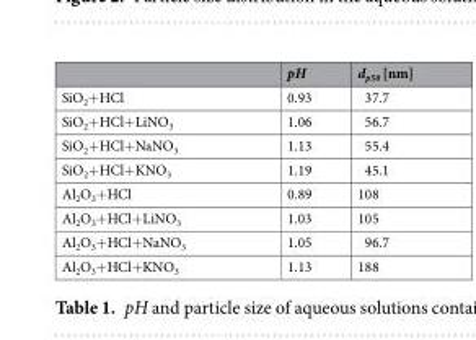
<table><thead><tr><td></td><td>pH</td><td>d<sub>p50</sub> [nm]</td></tr></thead><tbody><tr><td>SiO<sub>2</sub>+HCl</td><td>0.93</td><td>37.7</td></tr><tr><td>SiO<sub>2</sub>+HCl+LiNO<sub>3</sub></td><td>1.06</td><td>56.7</td></tr><tr><td>SiO<sub>2</sub>+HCl+NaNO<sub>3</sub></td><td>1.13</td><td>55.4</td></tr><tr><td>SiO<sub>2</sub>+HCl+KNO<sub>3</sub></td><td>1.19</td><td>45.1</td></tr><tr><td>Al<sub>2</sub>O<sub>3</sub>+HCl</td><td>0.89</td><td>108</td></tr><tr><td>Al<sub>2</sub>O<sub>3</sub>+HCl+LiNO<sub>3</sub></td><td>1.03</td><td>105</td></tr><tr><td>Al<sub>2</sub>O<sub>3</sub>+HCl+NaNO<sub>3</sub></td><td>1.05</td><td>96.7</td></tr><tr><td>Al<sub>2</sub>O<sub>3</sub>+HCl+KNO<sub>3</sub></td><td>1.13</td><td>188</td></tr></tbody></table>